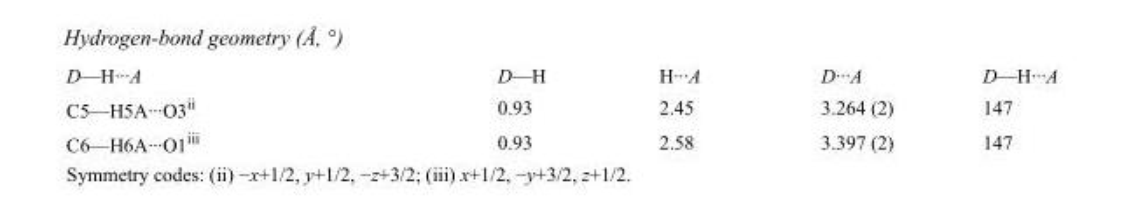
<table><tbody><tr><td>D—H···A</td><td>D—H</td><td>H···A</td><td>D···A</td><td>D—H···A</td></tr><tr><td>C5—H5A···O3<sup>ii</sup></td><td>0.93</td><td>2.45</td><td>3.264 (2)</td><td>147</td></tr><tr><td>C6—H6A···O1<sup>iii</sup></td><td>0.93</td><td>2.58</td><td>3.397 (2)</td><td>147</td></tr></tbody></table>